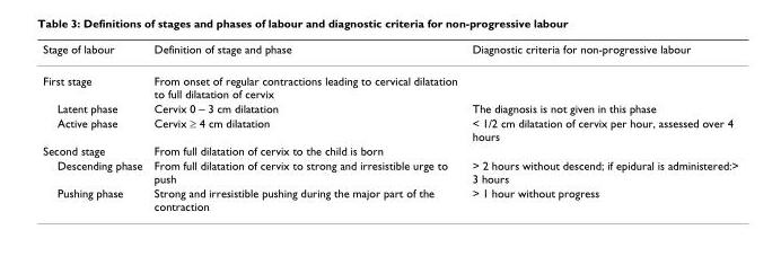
<table><thead><tr><td>Stage of labour</td><td>Definition of stage and phase</td><td>Diagnostic criteria for non-progressive labour</td></tr></thead><tbody><tr><td>First stage</td><td>From onset of regular contractions leading to cervical dilatation to full dilatation of cervix</td><td></td></tr><tr><td>Latent phase</td><td>Cervix 0 – 3 cm dilatation</td><td>The diagnosis is not given in this phase</td></tr><tr><td>Active phase</td><td>Cervix ≥ 4 cm dilatation</td><td>&lt; 1/2 cm dilatation of cervix per hour, assessed over 4 hours</td></tr><tr><td>Second stage</td><td>From full dilatation of cervix to the child is born</td><td></td></tr><tr><td>Descending phase</td><td>From full dilatation of cervix to strong and irresistible urge to push</td><td>&gt; 2 hours without descend; if epidural is administered:&gt; 3 hours</td></tr><tr><td>Pushing phase</td><td>Strong and irresistible pushing during the major part of the contraction</td><td>&gt; 1 hour without progress</td></tr></tbody></table>